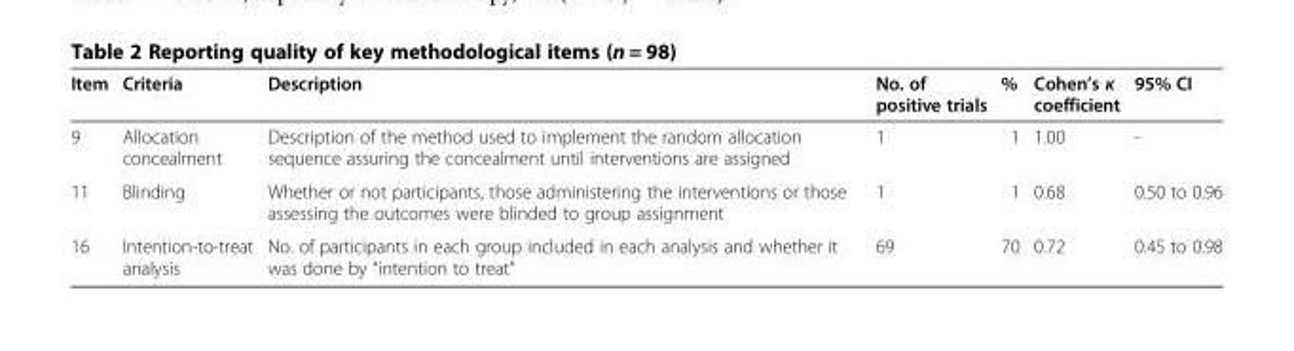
<table><thead><tr><td>Item</td><td>Criteria</td><td>Description</td><td>No. of positive trials</td><td>%</td><td>Cohen’s к coefficient</td><td>95% CI</td></tr></thead><tbody><tr><td>9</td><td>Allocation concealment</td><td>Description of the method used to implement the random allocation sequence assuring the concealment until interventions are assigned</td><td>1</td><td>1</td><td>1.00</td><td>-</td></tr><tr><td>11</td><td>Blinding</td><td>Whether or not participants, those administering the interventions or those assessing the outcomes were blinded to group assignment</td><td>1</td><td>1</td><td>0.68</td><td>0.50 to 0.96</td></tr><tr><td>16</td><td>Intention-to-treat analysis</td><td>No. of participants in each group included in each analysis and whether it was done by “intention to treat”</td><td>69</td><td>70</td><td>0.72</td><td>0.45 to 0.98</td></tr></tbody></table>